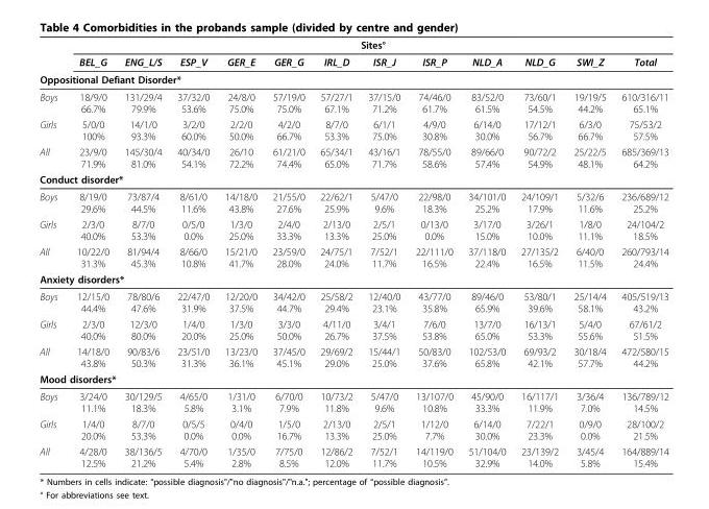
<table><thead><tr><td rowspan="2"></td><td colspan="12">Sites°</td></tr><tr><td>BEL_G</td><td>ENG_L/S</td><td>ESP_V</td><td>GER_E</td><td>GER_G</td><td>IRL_D</td><td>ISR_J</td><td>ISR_P</td><td>NLD_A</td><td>NLD_G</td><td>SWI_Z</td><td>Total</td></tr><tr><td colspan="13">Oppositional Defiant Disorder*</td></tr></thead><tbody><tr><td>Boys</td><td>18/9/0 66.7%</td><td>131/29/4 79.9%</td><td>37/32/0 53.6%</td><td>24/8/0 75.0%</td><td>57/19/0 75.0%</td><td>57/27/1 67.1%</td><td>37/15/0 71.2%</td><td>74/46/0 61.7%</td><td>83/52/0 61.5%</td><td>73/60/1 54.5%</td><td>19/19/5 44.2%</td><td>610/316/11 65.1%</td></tr><tr><td>Girls</td><td>5/0/0 100%</td><td>14/1/0 93.3%</td><td>3/2/0 60.0%</td><td>2/2/0 50.0%</td><td>4/2/0 66.7%</td><td>8/7/0 53.3%</td><td>6/1/1 75.0%</td><td>4/9/0 30.8%</td><td>6/14/0 30.0%</td><td>17/12/1 56.7%</td><td>6/3/0 66.7%</td><td>75/53/2 57.5%</td></tr><tr><td>All</td><td>23/9/0 71.9%</td><td>145/30/4 81.0%</td><td>40/34/0 54.1%</td><td>26/10 72.2%</td><td>61/21/0 74.4%</td><td>65/34/1 65.0%</td><td>43/16/1 71.7%</td><td>78/55/0 58.6%</td><td>89/66/0 57.4%</td><td>90/72/2 54.9%</td><td>25/22/5 48.1%</td><td>685/369/13 64.2%</td></tr><tr><td colspan="13">Conduct disorder*</td></tr><tr><td>Boys</td><td>8/19/0 29.6%</td><td>73/87/4 44.5%</td><td>8/61/0 11.6%</td><td>14/18/0 43.8%</td><td>21/55/0 27.6%</td><td>22/62/1 25.9%</td><td>5/47/0 9.6%</td><td>22/98/0 18.3%</td><td>34/101/0 25.2%</td><td>24/109/1 17.9%</td><td>5/32/6 11.6%</td><td>236/689/12 25.2%</td></tr><tr><td>Girls</td><td>2/3/0 40.0%</td><td>8/7/0 53.3%</td><td>0/5/0 0.0%</td><td>1/3/0 25.0%</td><td>2/4/0 33.3%</td><td>2/13/0 13.3%</td><td>2/5/1 25.0%</td><td>0/13/0 0.0%</td><td>3/17/0 15.0%</td><td>3/26/1 10.0%</td><td>1/8/0 11.1%</td><td>24/104/2 18.5%</td></tr><tr><td>All</td><td>10/22/0 31.3%</td><td>81/94/4 45.3%</td><td>8/66/0 10.8%</td><td>15/21/0 41.7%</td><td>23/59/0 28.0%</td><td>24/75/1 24.0%</td><td>7/52/1 11.7%</td><td>22/111/0 16.5%</td><td>37/118/0 22.4%</td><td>27/135/2 16.5%</td><td>6/40/0 11.5%</td><td>260/793/14 24.4%</td></tr><tr><td colspan="13">Anxiety disorders*</td></tr><tr><td>Boys</td><td>12/15/0 44.4%</td><td>78/80/6 47.6%</td><td>22/47/0 31.9%</td><td>12/20/0 37.5%</td><td>34/42/0 44.7%</td><td>25/58/2 29.4%</td><td>12/40/0 23.1%</td><td>43/77/0 35.8%</td><td>89/46/0 65.9%</td><td>53/80/1 39.6%</td><td>25/14/4 58.1%</td><td>405/519/13 43.2%</td></tr><tr><td>Girls</td><td>2/3/0 40.0%</td><td>12/3/0 80.0%</td><td>1/4/0 20.0%</td><td>1/3/0 25.0%</td><td>3/3/0 50.0%</td><td>4/11/0 26.7%</td><td>3/4/1 37.5%</td><td>7/6/0 53.8%</td><td>13/7/0 65.0%</td><td>16/13/1 53.3%</td><td>5/4/0 55.6%</td><td>67/61/2 51.5%</td></tr><tr><td>All</td><td>14/18/0 43.8%</td><td>90/83/6 50.3%</td><td>23/51/0 31.3%</td><td>13/23/0 36.1%</td><td>37/45/0 45.1%</td><td>29/69/2 29.0%</td><td>15/44/1 25.0%</td><td>50/83/0 37.6%</td><td>102/53/0 65.8%</td><td>69/93/2 42.1%</td><td>30/18/4 57.7%</td><td>472/580/15 44.2%</td></tr><tr><td colspan="13">Mood disorders*</td></tr><tr><td>Boys</td><td>3/24/0 11.1%</td><td>30/129/5 18.3%</td><td>4/65/0 5.8%</td><td>1/31/0 3.1%</td><td>6/70/0 7.9%</td><td>10/73/2 11.8%</td><td>5/47/0 9.6%</td><td>13/107/0 10.8%</td><td>45/90/0 33.3%</td><td>16/117/1 11.9%</td><td>3/36/4 7.0%</td><td>136/789/12 14.5%</td></tr><tr><td>Girls</td><td>1/4/0 20.0%</td><td>8/7/0 53.3%</td><td>0/5/5 0.0%</td><td>0/4/0 0.0%</td><td>1/5/0 16.7%</td><td>2/13/0 13.3%</td><td>2/5/1 25.0%</td><td>1/12/0 7.7%</td><td>6/14/0 30.0%</td><td>7/22/1 23.3%</td><td>0/9/0 0.0%</td><td>28/100/2 21.5%</td></tr><tr><td>All</td><td>4/28/0 12.5%</td><td>38/136/5 21.2%</td><td>4/70/0 5.4%</td><td>1/35/0 2.8%</td><td>7/75/0 8.5%</td><td>12/86/2 12.0%</td><td>7/52/1 11.7%</td><td>14/119/0 10.5%</td><td>51/104/0 32.9%</td><td>23/139/2 14.0%</td><td>3/45/4 5.8%</td><td>164/889/14 15.4%</td></tr></tbody></table>